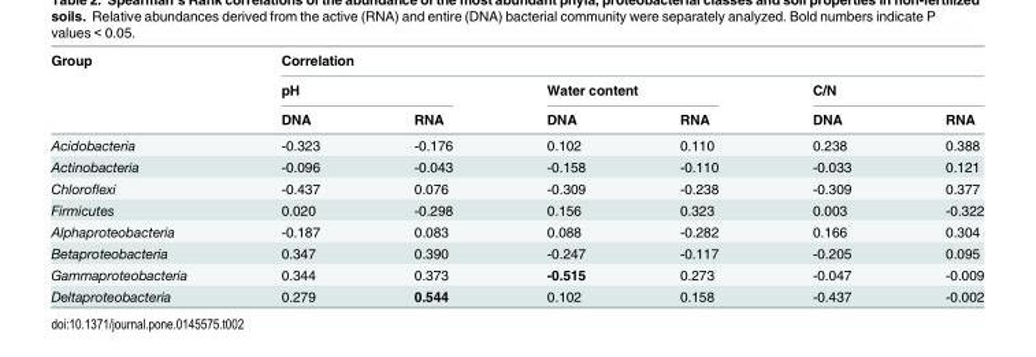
<table><thead><tr><td rowspan="3">Group</td><td colspan="6">Correlation</td></tr><tr><td colspan="2">pH</td><td colspan="2">Water content</td><td colspan="2">C/N</td></tr><tr><td>DNA</td><td>RNA</td><td>DNA</td><td>RNA</td><td>DNA</td><td>RNA</td></tr></thead><tbody><tr><td>Acidobacteria</td><td>-0.323</td><td>-0.176</td><td>0.102</td><td>0.110</td><td>0.238</td><td>0.388</td></tr><tr><td>Actinobacteria</td><td>-0.096</td><td>-0.043</td><td>-0.158</td><td>-0.110</td><td>-0.033</td><td>0.121</td></tr><tr><td>Chloroflexi</td><td>-0.437</td><td>0.076</td><td>-0.309</td><td>-0.238</td><td>-0.309</td><td>0.377</td></tr><tr><td>Firmicutes</td><td>0.020</td><td>-0.298</td><td>0.156</td><td>0.323</td><td>0.003</td><td>-0.322</td></tr><tr><td>Alphaproteobacteria</td><td>-0.187</td><td>0.083</td><td>0.088</td><td>-0.282</td><td>0.166</td><td>0.304</td></tr><tr><td>Betaproteobacteria</td><td>0.347</td><td>0.390</td><td>-0.247</td><td>-0.117</td><td>-0.205</td><td>0.095</td></tr><tr><td>Gammaproteobacteria</td><td>0.344</td><td>0.373</td><td>-0.515</td><td>0.273</td><td>-0.047</td><td>-0.009</td></tr><tr><td>Deltaproteobacteria</td><td>0.279</td><td>0.544</td><td>0.102</td><td>0.158</td><td>-0.437</td><td>-0.002</td></tr></tbody></table>